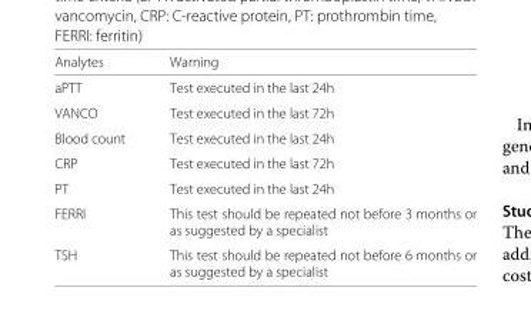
<table><thead><tr><td>Analytes</td><td>Warning</td></tr></thead><tbody><tr><td>aPTT</td><td>Test executed in the last 24h</td></tr><tr><td>VANCO</td><td>Test executed in the last 72h</td></tr><tr><td>Blood count</td><td>Test executed in the last 24h</td></tr><tr><td>CRP</td><td>Test executed in the last 72h</td></tr><tr><td>PT</td><td>Test executed in the last 24h</td></tr><tr><td>FERRI</td><td>This test should be repeated not before 3 months or as suggested by a specialist</td></tr><tr><td>TSH</td><td>This test should be repeated not before 6 months or as suggested by a specialist</td></tr></tbody></table>